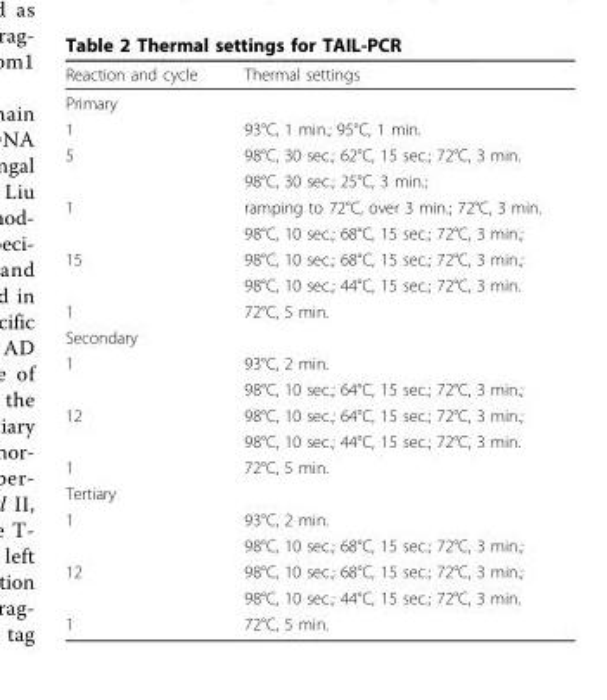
<table><thead><tr><td>Reaction and cycle</td><td>Thermal settings</td></tr></thead><tbody><tr><td colspan="2">Primary</td></tr><tr><td>1</td><td>93°C, 1 min.; 95°C, 1 min.</td></tr><tr><td rowspan="2">5</td><td>98°C, 30 sec.; 62°C, 15 sec.; 72°C, 3 min.</td></tr><tr><td>98°C, 30 sec.; 25°C, 3 min.;</td></tr><tr><td rowspan="2">1</td><td>ramping to 72°C, over 3 min.; 72°C, 3 min.</td></tr><tr><td>98°C, 10 sec.; 68°C, 15 sec.; 72°C, 3 min.;</td></tr><tr><td rowspan="2">15</td><td>98°C, 10 sec.; 68°C, 15 sec.; 72°C, 3 min.;</td></tr><tr><td>98°C, 10 sec.; 44°C, 15 sec.; 72°C, 3 min.</td></tr><tr><td>1</td><td>72°C, 5 min.</td></tr><tr><td colspan="2">Secondary</td></tr><tr><td rowspan="2">1</td><td>93°C, 2 min.</td></tr><tr><td>98°C, 10 sec.; 64°C, 15 sec.; 72°C, 3 min.;</td></tr><tr><td rowspan="2">12</td><td>98°C, 10 sec.; 64°C, 15 sec.; 72°C, 3 min.;</td></tr><tr><td>98°C, 10 sec.; 44°C, 15 sec.; 72°C, 3 min.</td></tr><tr><td>1</td><td>72°C, 5 min.</td></tr><tr><td colspan="2">Tertiary</td></tr><tr><td rowspan="2">1</td><td>93°C, 2 min.</td></tr><tr><td>98°C, 10 sec.; 68°C, 15 sec.; 72°C, 3 min.;</td></tr><tr><td rowspan="2">12</td><td>98°C, 10 sec.; 68°C, 15 sec.; 72°C, 3 min.;</td></tr><tr><td>98°C, 10 sec.; 44°C, 15 sec.; 72°C, 3 min.</td></tr><tr><td>1</td><td>72°C, 5 min.</td></tr></tbody></table>